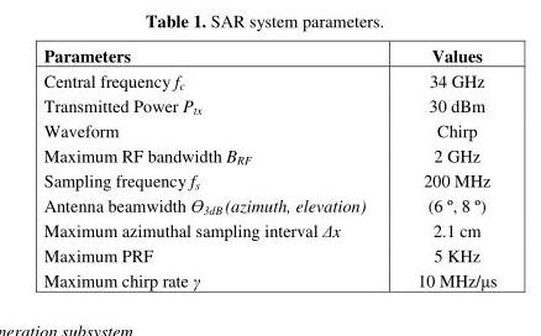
<table><thead><tr><td>Parameters</td><td>Values</td></tr></thead><tbody><tr><td>Central frequency f<sub>c</sub></td><td>34 GHz</td></tr><tr><td>Transmitted Power P<sub>tx</sub></td><td>30 dBm</td></tr><tr><td>Waveform</td><td>Chirp</td></tr><tr><td>Maximum RF bandwidth B<sub>RF</sub></td><td>2 GHz</td></tr><tr><td>Sampling frequency f<sub>s</sub></td><td>200 MHz</td></tr><tr><td>Antenna beamwidth Ө3dB (azimuth, elevation)</td><td>(6 º, 8 º)</td></tr><tr><td>Maximum azimuthal sampling interval ∆x</td><td>2.1 cm</td></tr><tr><td>Maximum PRF</td><td>5 KHz</td></tr><tr><td>Maximum chirp rate γ</td><td>10 MHz/µs</td></tr></tbody></table>